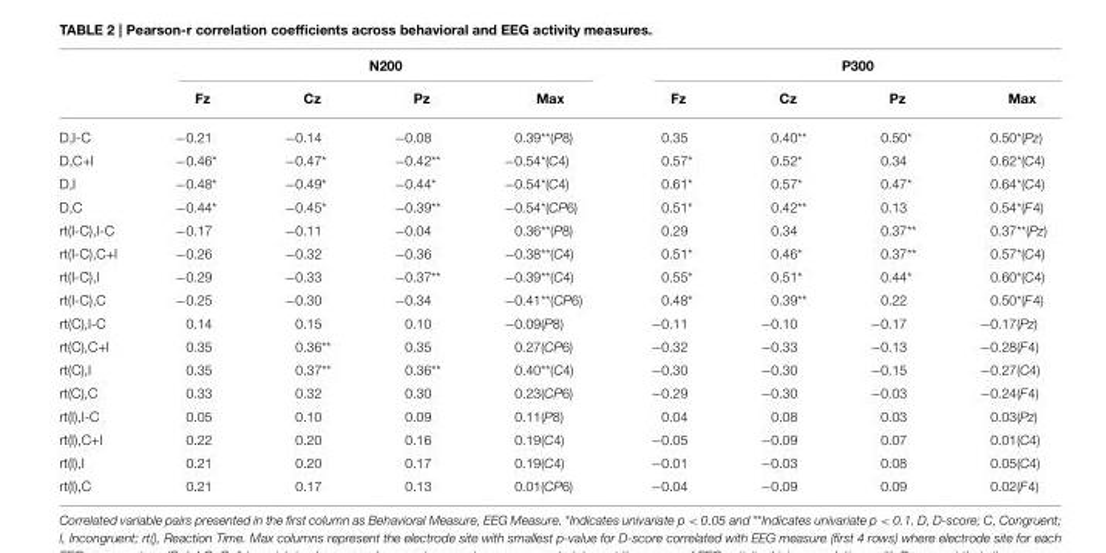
<table><thead><tr><td rowspan="2"></td><td colspan="4">N200</td><td colspan="4">P300</td></tr><tr><td>Fz</td><td>Cz</td><td>Pz</td><td>Max</td><td>Fz</td><td>Cz</td><td>Pz</td><td>Max</td></tr></thead><tbody><tr><td>D,I-C</td><td>−0.21</td><td>−0.14</td><td>−0.08</td><td>0.39**(P8)</td><td>0.35</td><td>0.40**</td><td>0.50*</td><td>0.50*(Pz)</td></tr><tr><td>D,C+I</td><td>−0.46*</td><td>−0.47*</td><td>−0.42**</td><td>−0.54*(C4)</td><td>0.57*</td><td>0.52*</td><td>0.34</td><td>0.62*(C4)</td></tr><tr><td>D,I</td><td>−0.48*</td><td>−0.49*</td><td>−0.44*</td><td>−0.54*(C4)</td><td>0.61*</td><td>0.57*</td><td>0.47*</td><td>0.64*(C4)</td></tr><tr><td>D,C</td><td>−0.44*</td><td>−0.45*</td><td>−0.39**</td><td>−0.54*(CP6)</td><td>0.51*</td><td>0.42**</td><td>0.13</td><td>0.54*(F4)</td></tr><tr><td>rt(I-C),I-C</td><td>−0.17</td><td>−0.11</td><td>−0.04</td><td>0.36**(P8)</td><td>0.29</td><td>0.34</td><td>0.37**</td><td>0.37**(Pz)</td></tr><tr><td>rt(I-C),C+I</td><td>−0.26</td><td>−0.32</td><td>−0.36</td><td>−0.38**(C4)</td><td>0.51*</td><td>0.46*</td><td>0.37**</td><td>0.57*(C4)</td></tr><tr><td>rt(I-C),I</td><td>−0.29</td><td>−0.33</td><td>−0.37**</td><td>−0.39**(C4)</td><td>0.55*</td><td>0.51*</td><td>0.44*</td><td>0.60*(C4)</td></tr><tr><td>rt(I-C),C</td><td>−0.25</td><td>−0.30</td><td>−0.34</td><td>−0.41**(CP6)</td><td>0.48*</td><td>0.39**</td><td>0.22</td><td>0.50*(F4)</td></tr><tr><td>rt(C),I-C</td><td>0.14</td><td>0.15</td><td>0.10</td><td>−0.09(P8)</td><td>−0.11</td><td>−0.10</td><td>−0.17</td><td>−0.17(Pz)</td></tr><tr><td>rt(C),C+I</td><td>0.35</td><td>0.36**</td><td>0.35</td><td>0.27(CP6)</td><td>−0.32</td><td>−0.33</td><td>−0.13</td><td>−0.28(F4)</td></tr><tr><td>rt(C),I</td><td>0.35</td><td>0.37**</td><td>0.36**</td><td>0.40**(C4)</td><td>−0.30</td><td>−0.30</td><td>−0.15</td><td>−0.27(C4)</td></tr><tr><td>rt(C),C</td><td>0.33</td><td>0.32</td><td>0.30</td><td>0.23(CP6)</td><td>−0.29</td><td>−0.30</td><td>−0.03</td><td>−0.24(F4)</td></tr><tr><td>rt(I),I-C</td><td>0.05</td><td>0.10</td><td>0.09</td><td>0.11(P8)</td><td>0.04</td><td>0.08</td><td>0.03</td><td>0.03(Pz)</td></tr><tr><td>rt(I),C+I</td><td>0.22</td><td>0.20</td><td>0.16</td><td>0.19(C4)</td><td>−0.05</td><td>−0.09</td><td>0.07</td><td>0.01(C4)</td></tr><tr><td>rt(I),I</td><td>0.21</td><td>0.20</td><td>0.17</td><td>0.19(C4)</td><td>−0.01</td><td>−0.03</td><td>0.08</td><td>0.05(C4)</td></tr><tr><td>rt(I),C</td><td>0.21</td><td>0.17</td><td>0.13</td><td>0.01(CP6)</td><td>−0.04</td><td>−0.09</td><td>0.09</td><td>0.02(F4)</td></tr></tbody></table>